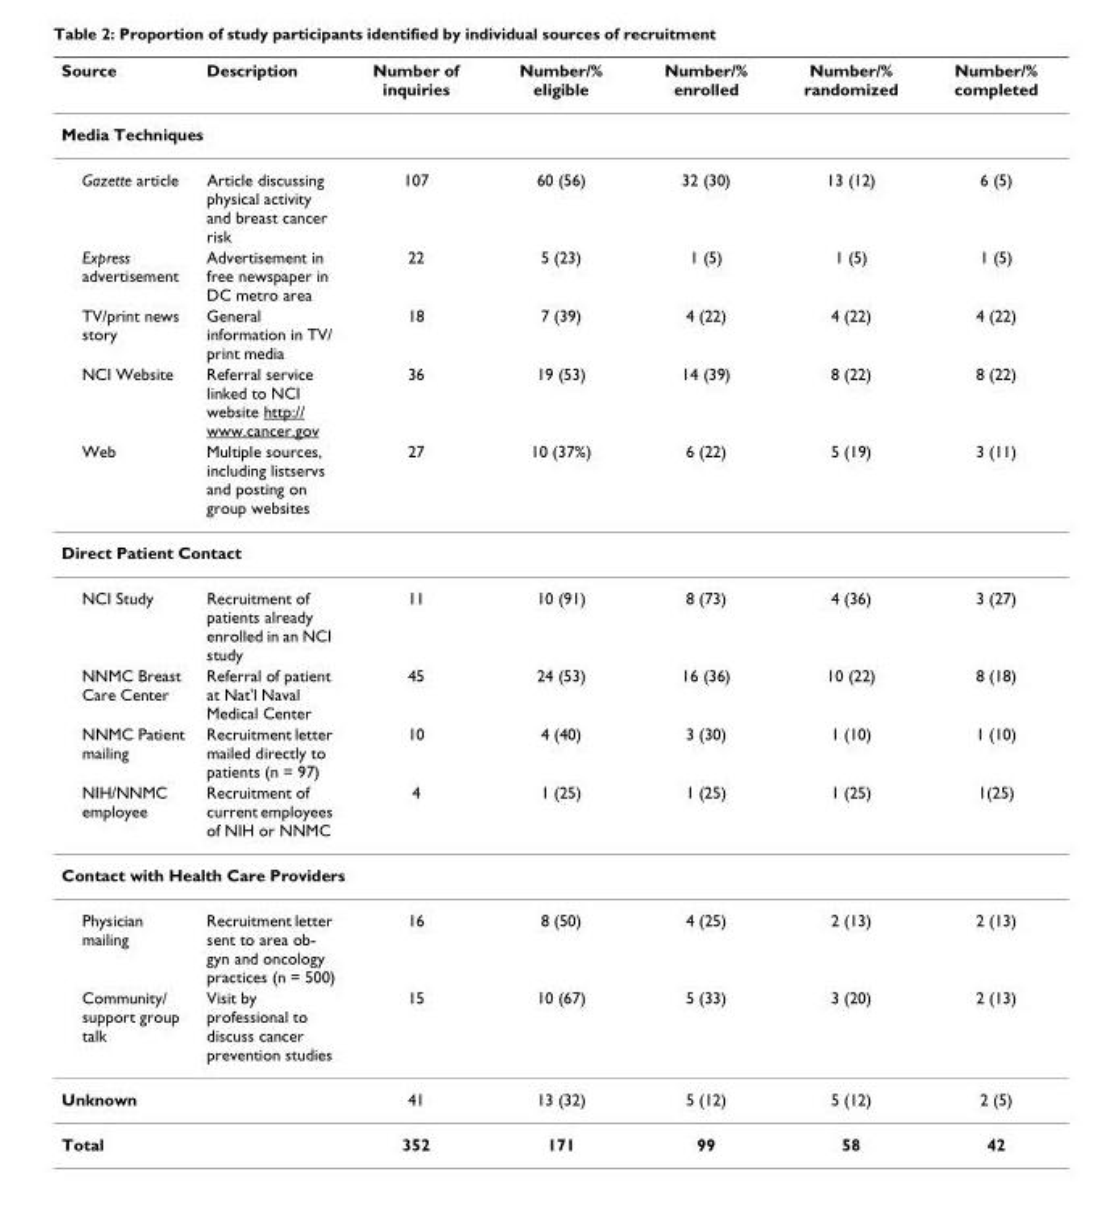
<table><thead><tr><td>Source</td><td>Description</td><td>Number of inquiries</td><td>Number/% eligible</td><td>Number/% enrolled</td><td>Number/% randomized</td><td>Number/% completed</td></tr></thead><tbody><tr><td colspan="7">Media Techniques</td></tr><tr><td>Gazette article</td><td>Article discussing physical activity and breast cancer risk</td><td>107</td><td>60 (56)</td><td>32 (30)</td><td>13 (12)</td><td>6 (5)</td></tr><tr><td>Express advertisement</td><td>Advertisement in free newspaper in DC metro area</td><td>22</td><td>5 (23)</td><td>1 (5)</td><td>1 (5)</td><td>1 (5)</td></tr><tr><td>TV/print news story</td><td>General information in TV/ print media</td><td>18</td><td>7 (39)</td><td>4 (22)</td><td>4 (22)</td><td>4 (22)</td></tr><tr><td>NCI Website</td><td>Referral service linked to NCI website http:// www.cancer.gov</td><td>36</td><td>19 (53)</td><td>14 (39)</td><td>8 (22)</td><td>8 (22)</td></tr><tr><td>Web</td><td>Multiple sources, including listservs and posting on group websites</td><td>27</td><td>10 (37%)</td><td>6 (22)</td><td>5 (19)</td><td>3 (11)</td></tr><tr><td colspan="7">Direct Patient Contact</td></tr><tr><td>NCI Study</td><td>Recruitment of patients already enrolled in an NCI study</td><td>11</td><td>10 (91)</td><td>8 (73)</td><td>4 (36)</td><td>3 (27)</td></tr><tr><td>NNMC Breast Care Center</td><td>Referral of patient at Nat&#x27;l Naval Medical Center</td><td>45</td><td>24 (53)</td><td>16 (36)</td><td>10 (22)</td><td>8 (18)</td></tr><tr><td>NNMC Patient mailing</td><td>Recruitment letter mailed directly to patients (n = 97)</td><td>10</td><td>4 (40)</td><td>3 (30)</td><td>1 (10)</td><td>1 (10)</td></tr><tr><td>NIH/NNMC employee</td><td>Recruitment of current employees of NIH or NNMC</td><td>4</td><td>1 (25)</td><td>1 (25)</td><td>1 (25)</td><td>1(25)</td></tr><tr><td colspan="7">Contact with Health Care Providers</td></tr><tr><td>Physician mailing</td><td>Recruitment letter sent to area ob- gyn and oncology practices (n = 500)</td><td>16</td><td>8 (50)</td><td>4 (25)</td><td>2 (13)</td><td>2 (13)</td></tr><tr><td>Community/ support group talk</td><td>Visit by professional to discuss cancer prevention studies</td><td>15</td><td>10 (67)</td><td>5 (33)</td><td>3 (20)</td><td>2 (13)</td></tr><tr><td>Unknown</td><td></td><td>41</td><td>13 (32)</td><td>5 (12)</td><td>5 (12)</td><td>2 (5)</td></tr><tr><td>Total</td><td></td><td>352</td><td>171</td><td>99</td><td>58</td><td>42</td></tr></tbody></table>